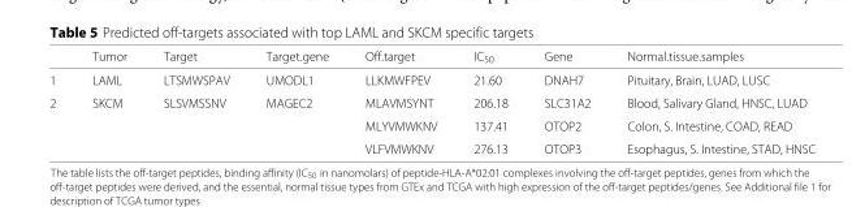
<table><thead><tr><td></td><td>Tumor</td><td>Target</td><td>Target.gene</td><td>Off.target</td><td>IC<sub>50</sub></td><td>Gene</td><td>Normal.tissue.samples</td></tr></thead><tbody><tr><td>1</td><td>LAML</td><td>LTSMWSPAV</td><td>UMODL1</td><td>LLKMWFPEV</td><td>21.60</td><td>DNAH7</td><td>Pituitary, Brain, LUAD, LUSC</td></tr><tr><td rowspan="3">2</td><td>SKCM</td><td>SLSVMSSNV</td><td>MAGEC2</td><td>MLAVMSYNT</td><td>206.18</td><td>SLC31A2</td><td>Blood, Salivary Gland, HNSC, LUAD</td></tr><tr><td></td><td></td><td></td><td>MLYVMWKNV</td><td>137.41</td><td>OTOP2</td><td>Colon, S. Intestine, COAD, READ</td></tr><tr><td></td><td></td><td></td><td>VLFVMWKNV</td><td>276.13</td><td>OTOP3</td><td>Esophagus, S. Intestine, STAD, HNSC</td></tr></tbody></table>